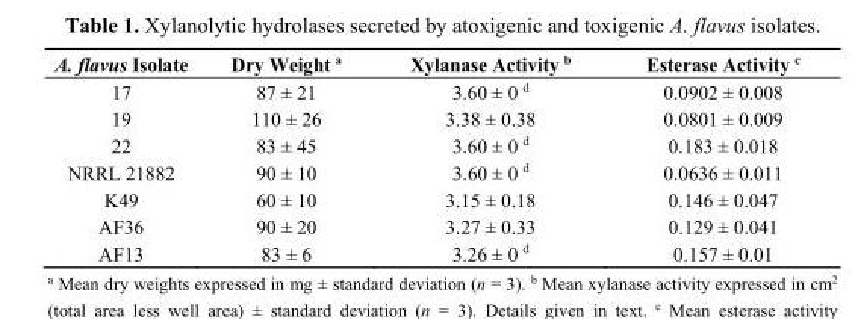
<table><thead><tr><td>A. flavus Isolate</td><td>Dry Weight <sup>a</sup></td><td>Xylanase Activity <sup>b</sup></td><td>Esterase Activity <sup>c</sup></td></tr></thead><tbody><tr><td>17</td><td>87 ± 21</td><td>3.60 ± 0 <sup>d</sup></td><td>0.0902 ± 0.008</td></tr><tr><td>19</td><td>110 ± 26</td><td>3.38 ± 0.38</td><td>0.0801 ± 0.009</td></tr><tr><td>22</td><td>83 ± 45</td><td>3.60 ± 0 <sup>d</sup></td><td>0.183 ± 0.018</td></tr><tr><td>NRRL 21882</td><td>90 ± 10</td><td>3.60 ± 0 <sup>d</sup></td><td>0.0636 ± 0.011</td></tr><tr><td>K49</td><td>60 ± 10</td><td>3.15 ± 0.18</td><td>0.146 ± 0.047</td></tr><tr><td>AF36</td><td>90 ± 20</td><td>3.27 ± 0.33</td><td>0.129 ± 0.041</td></tr><tr><td>AF13</td><td>83 ± 6</td><td>3.26 ± 0 <sup>d</sup></td><td>0.157 ± 0.01</td></tr></tbody></table>